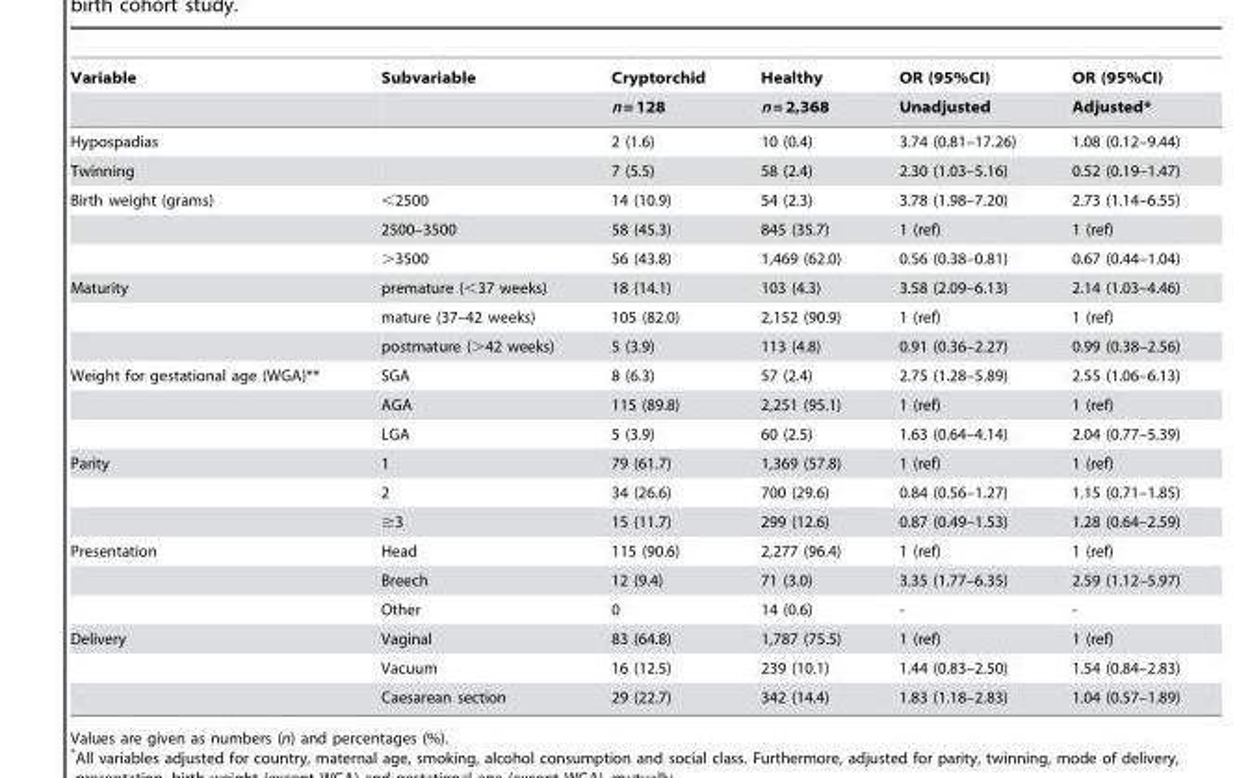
<table><thead><tr><td rowspan="2">Variable</td><td rowspan="2">Subvariable</td><td rowspan="2">Cryptorchid n = 128</td><td rowspan="2">Healthy n = 2,368</td><td rowspan="2">OR (95%CI) Unadjusted</td><td rowspan="2">OR (95%CI) Adjusted*</td></tr><tr></tr></thead><tbody><tr><td>Hypospadias</td><td></td><td>2 (1.6)</td><td>10 (0.4)</td><td>3.74 (0.81–17.26)</td><td>1.08 (0.12–9.44)</td></tr><tr><td>Twinning</td><td></td><td>7 (5.5)</td><td>58 (2.4)</td><td>2.30 (1.03–5.16)</td><td>0.52 (0.19–1.47)</td></tr><tr><td rowspan="3">Birth weight (grams)</td><td>&lt;2500</td><td>14 (10.9)</td><td>54 (2.3)</td><td>3.78 (1.98–7.20)</td><td>2.73 (1.14–6.55)</td></tr><tr><td>2500–3500</td><td>58 (45.3)</td><td>845 (35.7)</td><td>1 (ref)</td><td>1 (ref)</td></tr><tr><td>&gt;3500</td><td>56 (43.8)</td><td>1,469 (62.0)</td><td>0.56 (0.38–0.81)</td><td>0.67 (0.44–1.04)</td></tr><tr><td rowspan="3">Maturity</td><td>premature (&lt;37 weeks)</td><td>18 (14.1)</td><td>103 (4.3)</td><td>3.58 (2.09–6.13)</td><td>2.14 (1.03–4.46)</td></tr><tr><td>mature (37–42 weeks)</td><td>105 (82.0)</td><td>2,152 (90.9)</td><td>1 (ref)</td><td>1 (ref)</td></tr><tr><td>postmature (&gt;42 weeks)</td><td>5 (3.9)</td><td>113 (4.8)</td><td>0.91 (0.36–2.27)</td><td>0.99 (0.38–2.56)</td></tr><tr><td rowspan="3">Weight for gestational age (WGA)**</td><td>SGA</td><td>8 (6.3)</td><td>57 (2.4)</td><td>2.75 (1.28–5.89)</td><td>2.55 (1.06–6.13)</td></tr><tr><td>AGA</td><td>115 (89.8)</td><td>2,251 (95.1)</td><td>1 (ref)</td><td>1 (ref)</td></tr><tr><td>LGA</td><td>5 (3.9)</td><td>60 (2.5)</td><td>1.63 (0.64–4.14)</td><td>2.04 (0.77–5.39)</td></tr><tr><td rowspan="3">Parity</td><td>1</td><td>79 (61.7)</td><td>1,369 (57.8)</td><td>1 (ref)</td><td>1 (ref)</td></tr><tr><td>2</td><td>34 (26.6)</td><td>700 (29.6)</td><td>0.84 (0.56–1.27)</td><td>1.15 (0.71–1.85)</td></tr><tr><td>≥3</td><td>15 (11.7)</td><td>299 (12.6)</td><td>0.87 (0.49–1.53)</td><td>1.28 (0.64–2.59)</td></tr><tr><td rowspan="3">Presentation</td><td>Head</td><td>115 (90.6)</td><td>2,277 (96.4)</td><td>1 (ref)</td><td>1 (ref)</td></tr><tr><td>Breech</td><td>12 (9.4)</td><td>71 (3.0)</td><td>3.35 (1.77–6.35)</td><td>2.59 (1.12–5.97)</td></tr><tr><td>Other</td><td>0</td><td>14 (0.6)</td><td>-</td><td>-</td></tr><tr><td rowspan="3">Delivery</td><td>Vaginal</td><td>83 (64.8)</td><td>1,787 (75.5)</td><td>1 (ref)</td><td>1 (ref)</td></tr><tr><td>Vacuum</td><td>16 (12.5)</td><td>239 (10.1)</td><td>1.44 (0.83–2.50)</td><td>1.54 (0.84–2.83)</td></tr><tr><td>Caesarean section</td><td>29 (22.7)</td><td>342 (14.4)</td><td>1.83 (1.18–2.83)</td><td>1.04 (0.57–1.89)</td></tr></tbody></table>